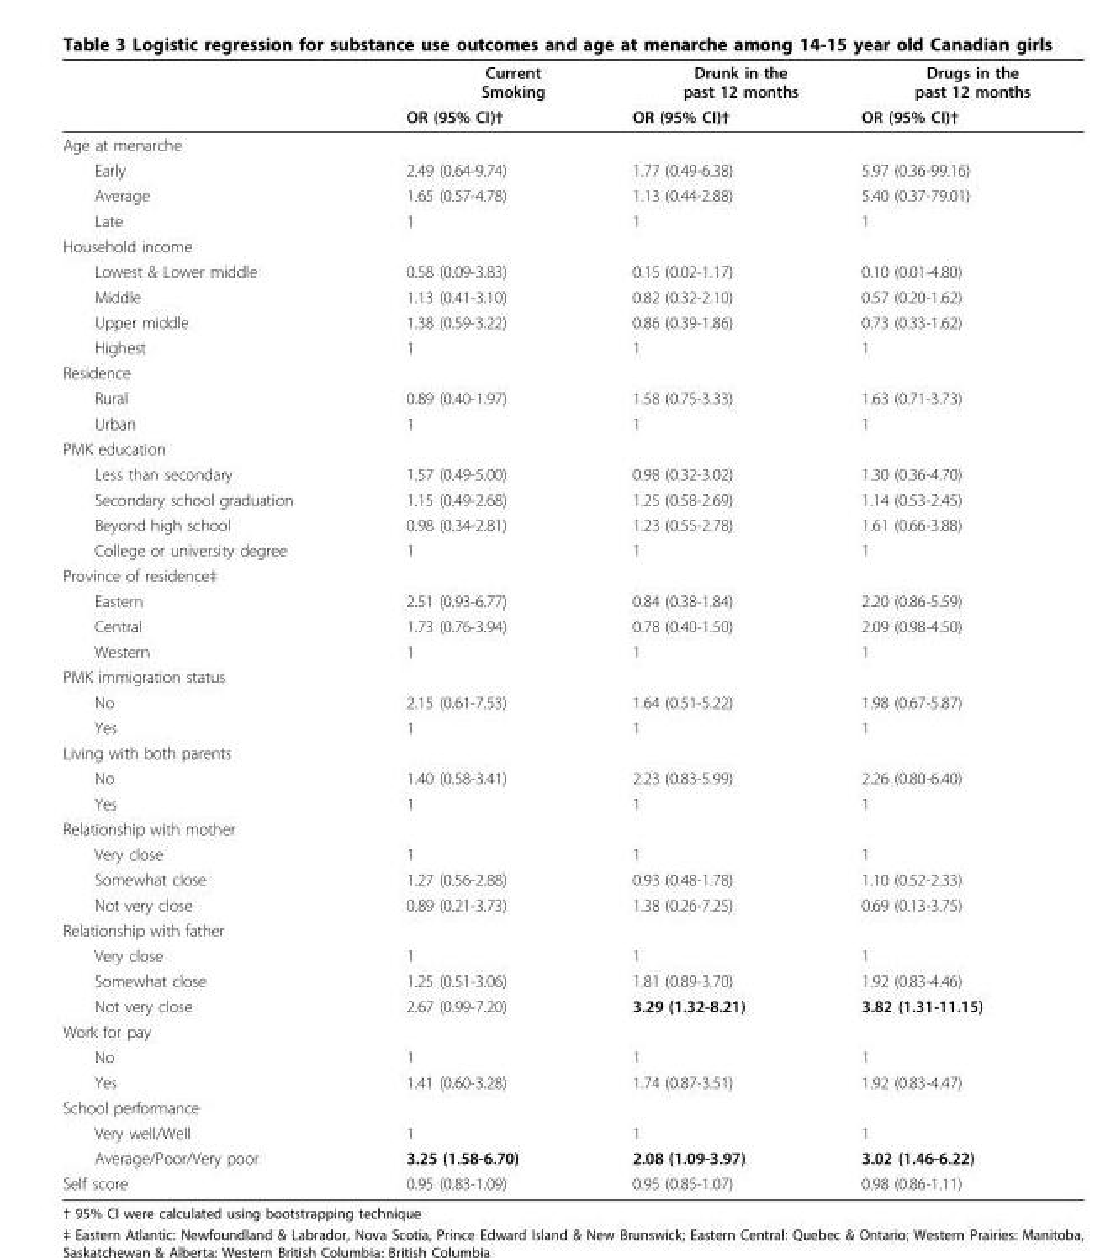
<table><thead><tr><td rowspan="2"></td><td rowspan="2">Current Smoking OR (95% CI)†</td><td rowspan="2">Drunk in the past 12 months OR (95% CI)†</td><td rowspan="2">Drugs in the past 12 months OR (95% CI)†</td></tr><tr></tr></thead><tbody><tr><td colspan="4">Age at menarche</td></tr><tr><td>Early</td><td>2.49 (0.64-9.74)</td><td>1.77 (0.49-6.38)</td><td>5.97 (0.36-99.16)</td></tr><tr><td>Average</td><td>1.65 (0.57-4.78)</td><td>1.13 (0.44-2.88)</td><td>5.40 (0.37-79.01)</td></tr><tr><td>Late</td><td>1</td><td>1</td><td>1</td></tr><tr><td colspan="4">Household income</td></tr><tr><td>Lowest &amp; Lower middle</td><td>0.58 (0.09-3.83)</td><td>0.15 (0.02-1.17)</td><td>0.10 (0.01-4.80)</td></tr><tr><td>Middle</td><td>1.13 (0.41-3.10)</td><td>0.82 (0.32-2.10)</td><td>0.57 (0.20-1.62)</td></tr><tr><td>Upper middle</td><td>1.38 (0.59-3.22)</td><td>0.86 (0.39-1.86)</td><td>0.73 (0.33-1.62)</td></tr><tr><td>Highest</td><td>1</td><td>1</td><td>1</td></tr><tr><td colspan="4">Residence</td></tr><tr><td>Rural</td><td>0.89 (0.40-1.97)</td><td>1.58 (0.75-3.33)</td><td>1.63 (0.71-3.73)</td></tr><tr><td>Urban</td><td>1</td><td>1</td><td>1</td></tr><tr><td colspan="4">PMK education</td></tr><tr><td>Less than secondary</td><td>1.57 (0.49-5.00)</td><td>0.98 (0.32-3.02)</td><td>1.30 (0.36-4.70)</td></tr><tr><td>Secondary school graduation</td><td>1.15 (0.49-2.68)</td><td>1.25 (0.58-2.69)</td><td>1.14 (0.53-2.45)</td></tr><tr><td>Beyond high school</td><td>0.98 (0.34-2.81)</td><td>1.23 (0.55-2.78)</td><td>1.61 (0.66-3.88)</td></tr><tr><td>College or university degree</td><td>1</td><td>1</td><td>1</td></tr><tr><td colspan="4">Province of residence‡</td></tr><tr><td>Eastern</td><td>2.51 (0.93-6.77)</td><td>0.84 (0.38-1.84)</td><td>2.20 (0.86-5.59)</td></tr><tr><td>Central</td><td>1.73 (0.76-3.94)</td><td>0.78 (0.40-1.50)</td><td>2.09 (0.98-4.50)</td></tr><tr><td>Western</td><td>1</td><td>1</td><td>1</td></tr><tr><td colspan="4">PMK immigration status</td></tr><tr><td>No</td><td>2.15 (0.61-7.53)</td><td>1.64 (0.51-5.22)</td><td>1.98 (0.67-5.87)</td></tr><tr><td>Yes</td><td>1</td><td>1</td><td>1</td></tr><tr><td colspan="4">Living with both parents</td></tr><tr><td>No</td><td>1.40 (0.58-3.41)</td><td>2.23 (0.83-5.99)</td><td>2.26 (0.80-6.40)</td></tr><tr><td>Yes</td><td>1</td><td>1</td><td>1</td></tr><tr><td colspan="4">Relationship with mother</td></tr><tr><td>Very close</td><td>1</td><td>1</td><td>1</td></tr><tr><td>Somewhat close</td><td>1.27 (0.56-2.88)</td><td>0.93 (0.48-1.78)</td><td>1.10 (0.52-2.33)</td></tr><tr><td>Not very close</td><td>0.89 (0.21-3.73)</td><td>1.38 (0.26-7.25)</td><td>0.69 (0.13-3.75)</td></tr><tr><td colspan="4">Relationship with father</td></tr><tr><td>Very close</td><td>1</td><td>1</td><td>1</td></tr><tr><td>Somewhat close</td><td>1.25 (0.51-3.06)</td><td>1.81 (0.89-3.70)</td><td>1.92 (0.83-4.46)</td></tr><tr><td>Not very close</td><td>2.67 (0.99-7.20)</td><td>3.29 (1.32-8.21)</td><td>3.82 (1.31-11.15)</td></tr><tr><td colspan="4">Work for pay</td></tr><tr><td>No</td><td>1</td><td>1</td><td>1</td></tr><tr><td>Yes</td><td>1.41 (0.60-3.28)</td><td>1.74 (0.87-3.51)</td><td>1.92 (0.83-4.47)</td></tr><tr><td colspan="4">School performance</td></tr><tr><td>Very well/Well</td><td>1</td><td>1</td><td>1</td></tr><tr><td>Average/Poor/Very poor</td><td>3.25 (1.58-6.70)</td><td>2.08 (1.09-3.97)</td><td>3.02 (1.46-6.22)</td></tr><tr><td>Self score</td><td>0.95 (0.83-1.09)</td><td>0.95 (0.85-1.07)</td><td>0.98 (0.86-1.11)</td></tr></tbody></table>